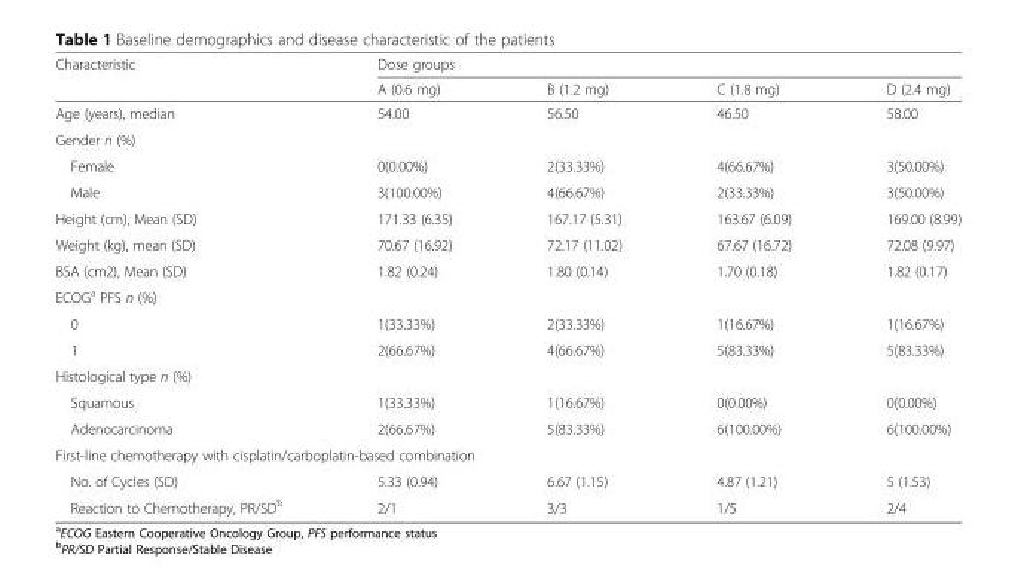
<table><thead><tr><td rowspan="2">Characteristic</td><td colspan="4">Dose groups</td></tr><tr><td>A (0.6 mg)</td><td>B (1.2 mg)</td><td>C (1.8 mg)</td><td>D (2.4 mg)</td></tr></thead><tbody><tr><td>Age (years), median</td><td>54.00</td><td>56.50</td><td>46.50</td><td>58.00</td></tr><tr><td colspan="5">Gender n (%)</td></tr><tr><td>Female</td><td>0(0.00%)</td><td>2(33.33%)</td><td>4(66.67%)</td><td>3(50.00%)</td></tr><tr><td>Male</td><td>3(100.00%)</td><td>4(66.67%)</td><td>2(33.33%)</td><td>3(50.00%)</td></tr><tr><td>Height (cm), Mean (SD)</td><td>171.33 (6.35)</td><td>167.17 (5.31)</td><td>163.67 (6.09)</td><td>169.00 (8.99)</td></tr><tr><td>Weight (kg), mean (SD)</td><td>70.67 (16.92)</td><td>72.17 (11.02)</td><td>67.67 (16.72)</td><td>72.08 (9.97)</td></tr><tr><td>BSA (cm2), Mean (SD)</td><td>1.82 (0.24)</td><td>1.80 (0.14)</td><td>1.70 (0.18)</td><td>1.82 (0.17)</td></tr><tr><td colspan="5">ECOG<sup>a</sup> PFS n (%)</td></tr><tr><td>0</td><td>1(33.33%)</td><td>2(33.33%)</td><td>1(16.67%)</td><td>1(16.67%)</td></tr><tr><td>1</td><td>2(66.67%)</td><td>4(66.67%)</td><td>5(83.33%)</td><td>5(83.33%)</td></tr><tr><td colspan="5">Histological type n (%)</td></tr><tr><td>Squamous</td><td>1(33.33%)</td><td>1(16.67%)</td><td>0(0.00%)</td><td>0(0.00%)</td></tr><tr><td>Adenocarcinoma</td><td>2(66.67%)</td><td>5(83.33%)</td><td>6(100.00%)</td><td>6(100.00%)</td></tr><tr><td colspan="5">First-line chemotherapy with cisplatin/carboplatin-based combination</td></tr><tr><td>No. of Cycles (SD)</td><td>5.33 (0.94)</td><td>6.67 (1.15)</td><td>4.87 (1.21)</td><td>5 (1.53)</td></tr><tr><td>Reaction to Chemotherapy, PR/SD<sup>b</sup></td><td>2/1</td><td>3/3</td><td>1/5</td><td>2/4</td></tr></tbody></table>